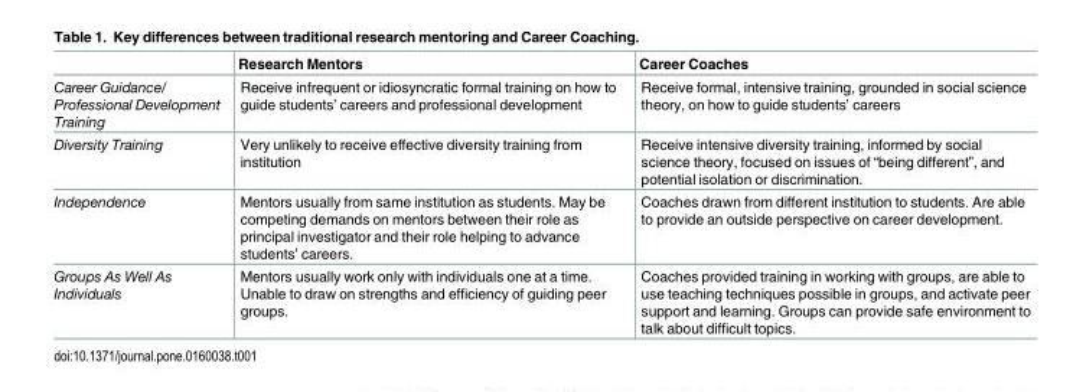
<table><thead><tr><td></td><td>Research Mentors</td><td>Career Coaches</td></tr></thead><tbody><tr><td>Career Guidance/ Professional Development Training</td><td>Receive infrequent or idiosyncratic formal training on how to guide students’ careers and professional development</td><td>Receive formal, intensive training, grounded in social science theory, on how to guide students’ careers</td></tr><tr><td>Diversity Training</td><td>Very unlikely to receive effective diversity training from institution</td><td>Receive intensive diversity training, informed by social science theory, focused on issues of “being different”, and potential isolation or discrimination.</td></tr><tr><td>Independence</td><td>Mentors usually from same institution as students. May be competing demands on mentors between their role as principal investigator and their role helping to advance students’ careers.</td><td>Coaches drawn from different institution to students. Are able to provide an outside perspective on career development.</td></tr><tr><td>Groups As Well As Individuals</td><td>Mentors usually work only with individuals one at a time. Unable to draw on strengths and efficiency of guiding peer groups.</td><td>Coaches provided training in working with groups, are able to use teaching techniques possible in groups, and activate peer support and learning. Groups can provide safe environment to talk about difficult topics.</td></tr></tbody></table>